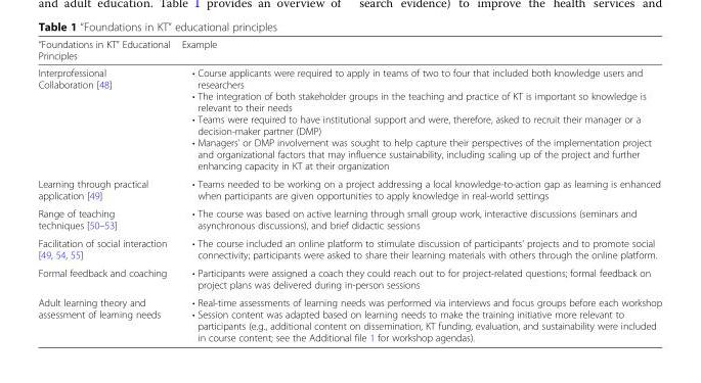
<table><thead><tr><td>“Foundations in KT” Educational Principles</td><td>Example</td></tr></thead><tbody><tr><td>Interprofessional Collaboration [48]</td><td>• Course applicants were required to apply in teams of two to four that included both knowledge users and researchers • The integration of both stakeholder groups in the teaching and practice of KT is important so knowledge is relevant to their needs • Teams were required to have institutional support and were, therefore, asked to recruit their manager or a decision-maker partner (DMP) • Managers’ or DMP involvement was sought to help capture their perspectives of the implementation project and organizational factors that may influence sustainability, including scaling up of the project and further enhancing capacity in KT at their organization</td></tr><tr><td>Learning through practical application [49]</td><td>• Teams needed to be working on a project addressing a local knowledge-to-action gap as learning is enhanced when participants are given opportunities to apply knowledge in real-world settings</td></tr><tr><td>Range of teaching techniques [50–53]</td><td>• The course was based on active learning through small group work, interactive discussions (seminars and asynchronous discussions), and brief didactic sessions</td></tr><tr><td>Facilitation of social interaction [49, 54, 55]</td><td>• The course included an online platform to stimulate discussion of participants’ projects and to promote social connectivity; participants were asked to share their learning materials with others through the online platform.</td></tr><tr><td>Formal feedback and coaching</td><td>• Participants were assigned a coach they could reach out to for project-related questions; formal feedback on project plans was delivered during in-person sessions</td></tr><tr><td>Adult learning theory and assessment of learning needs</td><td>• Real-time assessments of learning needs was performed via interviews and focus groups before each workshop • Session content was adapted based on learning needs to make the training initiative more relevant to participants (e.g., additional content on dissemination, KT funding, evaluation, and sustainability were included in course content; see the Additional file 1 for workshop agendas).</td></tr></tbody></table>